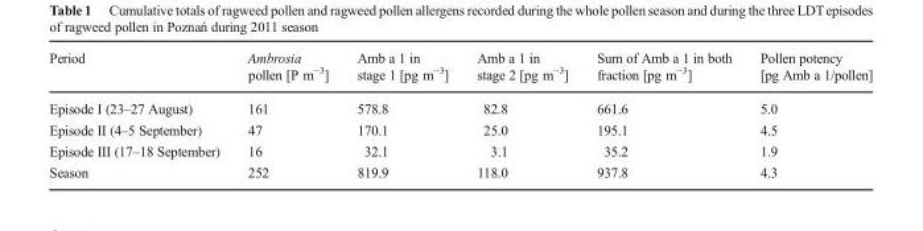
<table><thead><tr><td>Period</td><td>Ambrosia pollen [P m<sup>−3</sup>]</td><td>Amb a 1 in stage 1 [pg m<sup>−3</sup>]</td><td>Amb a 1 in stage 2 [pg m<sup>−3</sup>]</td><td>Sum of Amb a 1 in both fraction [pg m<sup>−3</sup>]</td><td>Pollen potency [pg Amb a 1/pollen]</td></tr></thead><tbody><tr><td>Episode I (23–27 August)</td><td>161</td><td>578.8</td><td>82.8</td><td>661.6</td><td>5.0</td></tr><tr><td>Episode II (4–5 September)</td><td>47</td><td>170.1</td><td>25.0</td><td>195.1</td><td>4.5</td></tr><tr><td>Episode III (17–18 September)</td><td>16</td><td>32.1</td><td>3.1</td><td>35.2</td><td>1.9</td></tr><tr><td>Season</td><td>252</td><td>819.9</td><td>118.0</td><td>937.8</td><td>4.3</td></tr></tbody></table>